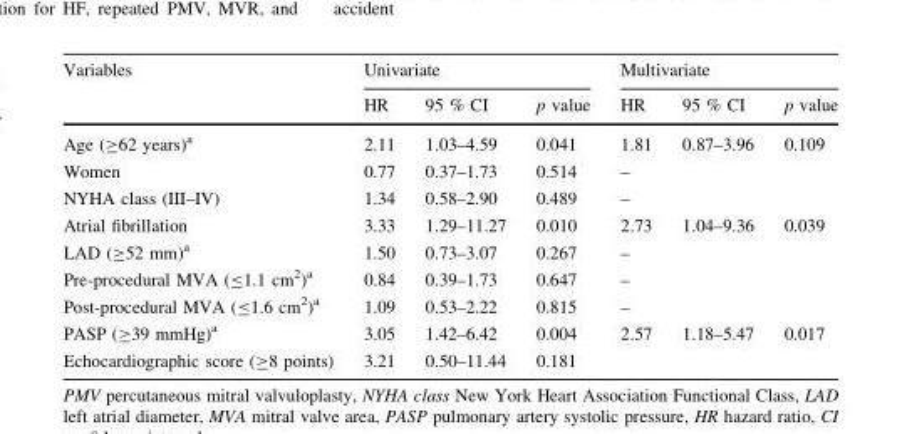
<table><thead><tr><td rowspan="2">Variables</td><td colspan="3">Univariate</td><td colspan="3">Multivariate</td></tr><tr><td>HR</td><td>95 % CI</td><td>p value</td><td>HR</td><td>95 % CI</td><td>p value</td></tr></thead><tbody><tr><td>Age (≥62 years)<sup>a</sup></td><td>2.11</td><td>1.03–4.59</td><td>0.041</td><td>1.81</td><td>0.87–3.96</td><td>0.109</td></tr><tr><td>Women</td><td>0.77</td><td>0.37–1.73</td><td>0.514</td><td>–</td><td></td><td></td></tr><tr><td>NYHA class (III–IV)</td><td>1.34</td><td>0.58–2.90</td><td>0.489</td><td>–</td><td></td><td></td></tr><tr><td>Atrial fibrillation</td><td>3.33</td><td>1.29–11.27</td><td>0.010</td><td>2.73</td><td>1.04–9.36</td><td>0.039</td></tr><tr><td>LAD (≥52 mm)<sup>a</sup></td><td>1.50</td><td>0.73–3.07</td><td>0.267</td><td>–</td><td></td><td></td></tr><tr><td>Pre-procedural MVA (≤1.1 cm<sup>2</sup>)<sup>a</sup></td><td>0.84</td><td>0.39–1.73</td><td>0.647</td><td>–</td><td></td><td></td></tr><tr><td>Post-procedural MVA (≤1.6 cm<sup>2</sup>)<sup>a</sup></td><td>1.09</td><td>0.53–2.22</td><td>0.815</td><td>–</td><td></td><td></td></tr><tr><td>PASP (≥39 mmHg)<sup>a</sup></td><td>3.05</td><td>1.42–6.42</td><td>0.004</td><td>2.57</td><td>1.18–5.47</td><td>0.017</td></tr><tr><td>Echocardiographic score (≥8 points)</td><td>3.21</td><td>0.50–11.44</td><td>0.181</td><td></td><td></td><td></td></tr></tbody></table>